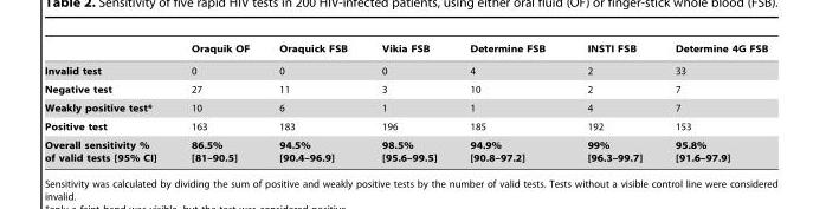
<table><thead><tr><td></td><td>Oraquik OF</td><td>Oraquick FSB</td><td>Vikia FSB</td><td>Determine FSB</td><td>INSTI FSB</td><td>Determine 4G FSB</td></tr></thead><tbody><tr><td>Invalid test</td><td>0</td><td>0</td><td>0</td><td>4</td><td>2</td><td>33</td></tr><tr><td>Negative test</td><td>27</td><td>11</td><td>3</td><td>10</td><td>2</td><td>7</td></tr><tr><td>Weakly positive test*</td><td>10</td><td>6</td><td>1</td><td>1</td><td>4</td><td>7</td></tr><tr><td>Positive test</td><td>163</td><td>183</td><td>196</td><td>185</td><td>192</td><td>153</td></tr><tr><td>Overall sensitivity % of valid tests [95% CI]</td><td>86.5% [81–90.5]</td><td>94.5% [90.4–96.9]</td><td>98.5% [95.6–99.5]</td><td>94.9% [90.8–97.2]</td><td>99% [96.3–99.7]</td><td>95.8% [91.6–97.9]</td></tr></tbody></table>